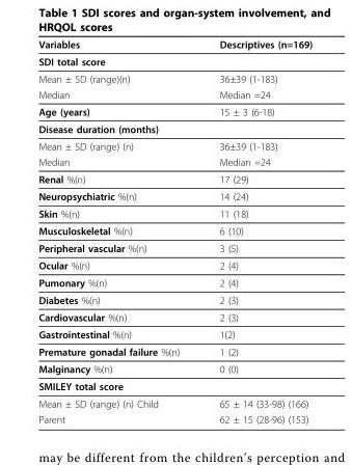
<table><thead><tr><td>Variables</td><td>Descriptives (n=169)</td></tr></thead><tbody><tr><td colspan="2">SDI total score</td></tr><tr><td>Mean ± SD (range)(n)</td><td>36±39 (1-183)</td></tr><tr><td>Median</td><td>Median =24</td></tr><tr><td>Age (years)</td><td>15 ± 3 (6-18)</td></tr><tr><td colspan="2">Disease duration (months)</td></tr><tr><td>Mean ± SD (range) (n)</td><td>36±39 (1-183)</td></tr><tr><td>Median</td><td>Median =24</td></tr><tr><td>Renal %(n)</td><td>17 (29)</td></tr><tr><td>Neuropsychiatric %(n)</td><td>14 (24)</td></tr><tr><td>Skin %(n)</td><td>11 (18)</td></tr><tr><td>Musculoskeletal %(n)</td><td>6 (10)</td></tr><tr><td>Peripheral vascular %(n)</td><td>3 (5)</td></tr><tr><td>Ocular %(n)</td><td>2 (4)</td></tr><tr><td>Pumonary %(n)</td><td>2 (4)</td></tr><tr><td>Diabetes %(n)</td><td>2 (3)</td></tr><tr><td>Cardiovascular %(n)</td><td>2 (3)</td></tr><tr><td>Gastrointestinal %(n)</td><td>1(2)</td></tr><tr><td>Premature gonadal failure %(n)</td><td>1 (2)</td></tr><tr><td>Malginancy %(n)</td><td>0 (0)</td></tr><tr><td colspan="2">SMILEY total score</td></tr><tr><td>Mean ± SD (range) (n) Child</td><td>65 ± 14 (33-98) (166)</td></tr><tr><td>Parent</td><td>62 ± 15 (28-96) (153)</td></tr></tbody></table>